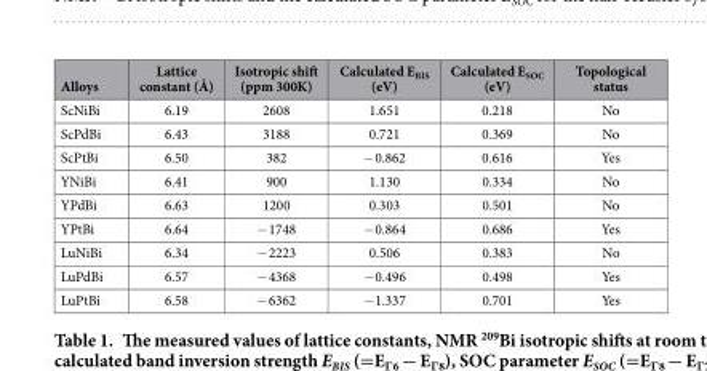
<table><thead><tr><td>Alloys</td><td>Lattice constant (Å)</td><td>Isotropic shift (ppm 300K)</td><td>Calculated E<sub>BIS</sub> (eV)</td><td>Calculated E<sub>SOC</sub> (eV)</td><td>Topological status</td></tr></thead><tbody><tr><td>ScNiBi</td><td>6.19</td><td>2608</td><td>1.651</td><td>0.218</td><td>No</td></tr><tr><td>ScPdBi</td><td>6.43</td><td>3188</td><td>0.721</td><td>0.369</td><td>No</td></tr><tr><td>ScPtBi</td><td>6.50</td><td>382</td><td>− 0.862</td><td>0.616</td><td>Yes</td></tr><tr><td>YNiBi</td><td>6.41</td><td>900</td><td>1.130</td><td>0.334</td><td>No</td></tr><tr><td>YPdBi</td><td>6.63</td><td>1200</td><td>0.303</td><td>0.501</td><td>No</td></tr><tr><td>YPtBi</td><td>6.64</td><td>− 1748</td><td>− 0.864</td><td>0.686</td><td>Yes</td></tr><tr><td>LuNiBi</td><td>6.34</td><td>− 2223</td><td>0.506</td><td>0.383</td><td>No</td></tr><tr><td>LuPdBi</td><td>6.57</td><td>− 4368</td><td>− 0.496</td><td>0.498</td><td>Yes</td></tr><tr><td>LuPtBi</td><td>6.58</td><td>− 6362</td><td>− 1.337</td><td>0.701</td><td>Yes</td></tr></tbody></table>